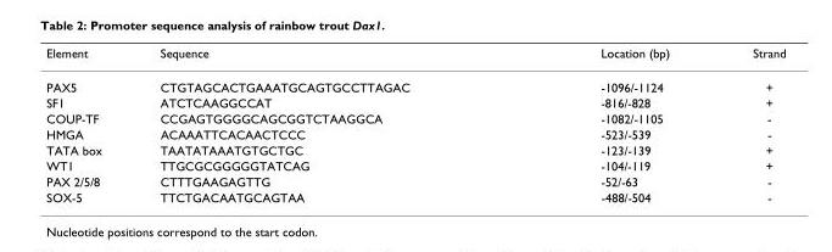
<table><thead><tr><td>Element</td><td>Sequence</td><td>Location (bp)</td><td>Strand</td></tr></thead><tbody><tr><td>PAX5</td><td>CTGTAGCACTGAAATGCAGTGCCTTAGAC</td><td>-1096/-1124</td><td>+</td></tr><tr><td>SF1</td><td>ATCTCAAGGCCAT</td><td>-816/-828</td><td>+</td></tr><tr><td>COUP-TF</td><td>CCGAGTGGGGCAGCGGTCTAAGGCA</td><td>-1082/-1105</td><td>-</td></tr><tr><td>HMGA</td><td>ACAAATTCACAACTCCC</td><td>-523/-539</td><td>-</td></tr><tr><td>TATA box</td><td>TAATATAAATGTGCTGC</td><td>-123/-139</td><td>+</td></tr><tr><td>WT1</td><td>TTGCGCGGGGGTATCAG</td><td>-104/-119</td><td>+</td></tr><tr><td>PAX 2/5/8</td><td>CTTTGAAGAGTTG</td><td>-52/-63</td><td>-</td></tr><tr><td>SOX-5</td><td>TTCTGACAATGCAGTAA</td><td>-488/-504</td><td>-</td></tr></tbody></table>